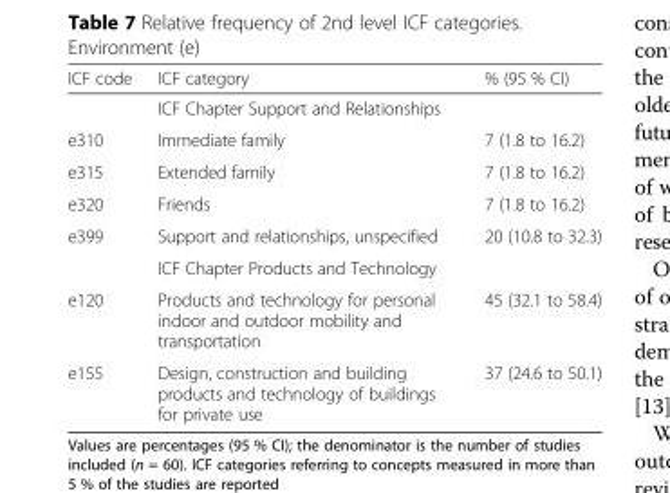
<table><thead><tr><td>ICF code</td><td>ICF category</td><td>% (95 % CI)</td></tr></thead><tbody><tr><td></td><td>ICF Chapter Support and Relationships</td><td></td></tr><tr><td>e310</td><td>Immediate family</td><td>7 (1.8 to 16.2)</td></tr><tr><td>e315</td><td>Extended family</td><td>7 (1.8 to 16.2)</td></tr><tr><td>e320</td><td>Friends</td><td>7 (1.8 to 16.2)</td></tr><tr><td rowspan="2">e399</td><td>Support and relationships, unspecified</td><td>20 (10.8 to 32.3)</td></tr><tr><td>ICF Chapter Products and Technology</td><td></td></tr><tr><td>e120</td><td>Products and technology for personal indoor and outdoor mobility and transportation</td><td>45 (32.1 to 58.4)</td></tr><tr><td>e155</td><td>Design, construction and building products and technology of buildings for private use</td><td>37 (24.6 to 50.1)</td></tr></tbody></table>